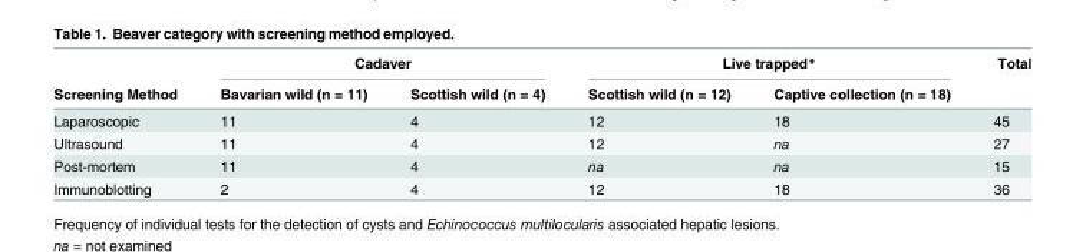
<table><thead><tr><td rowspan="2">Screening Method</td><td colspan="2">Cadaver</td><td colspan="2">Live trapped*</td><td rowspan="2">Total</td></tr><tr><td>Bavarian wild (n = 11)</td><td>Scottish wild (n = 4)</td><td>Scottish wild (n = 12)</td><td>Captive collection (n = 18)</td></tr></thead><tbody><tr><td>Laparoscopic</td><td>11</td><td>4</td><td>12</td><td>18</td><td>45</td></tr><tr><td>Ultrasound</td><td>11</td><td>4</td><td>12</td><td>na</td><td>27</td></tr><tr><td>Post-mortem</td><td>11</td><td>4</td><td>na</td><td>na</td><td>15</td></tr><tr><td>Immunoblotting</td><td>2</td><td>4</td><td>12</td><td>18</td><td>36</td></tr></tbody></table>